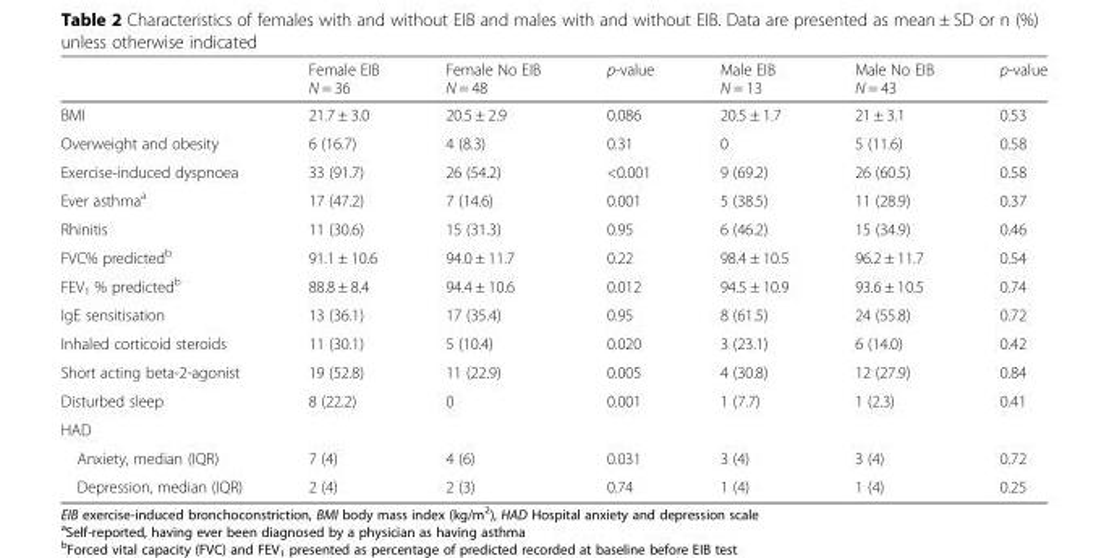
<table><thead><tr><td></td><td>Female EIB N = 36</td><td>Female No EIB N = 48</td><td>p-value</td><td>Male EIB N = 13</td><td>Male No EIB N = 43</td><td>p-value</td></tr></thead><tbody><tr><td>BMI</td><td>21.7 ± 3.0</td><td>20.5 ± 2.9</td><td>0.086</td><td>20.5 ± 1.7</td><td>21 ± 3.1</td><td>0.53</td></tr><tr><td>Overweight and obesity</td><td>6 (16.7)</td><td>4 (8.3)</td><td>0.31</td><td>0</td><td>5 (11.6)</td><td>0.58</td></tr><tr><td>Exercise-induced dyspnoea</td><td>33 (91.7)</td><td>26 (54.2)</td><td>&lt;0.001</td><td>9 (69.2)</td><td>26 (60.5)</td><td>0.58</td></tr><tr><td>Ever asthma<sup>a</sup></td><td>17 (47.2)</td><td>7 (14.6)</td><td>0.001</td><td>5 (38.5)</td><td>11 (28.9)</td><td>0.37</td></tr><tr><td>Rhinitis</td><td>11 (30.6)</td><td>15 (31.3)</td><td>0.95</td><td>6 (46.2)</td><td>15 (34.9)</td><td>0.46</td></tr><tr><td>FVC% predicted<sup>b</sup></td><td>91.1 ± 10.6</td><td>94.0 ± 11.7</td><td>0.22</td><td>98.4 ± 10.5</td><td>96.2 ± 11.7</td><td>0.54</td></tr><tr><td>FEV<sub>1</sub> % predicted<sup>b</sup></td><td>88.8 ± 8.4</td><td>94.4 ± 10.6</td><td>0.012</td><td>94.5 ± 10.9</td><td>93.6 ± 10.5</td><td>0.74</td></tr><tr><td>IgE sensitisation</td><td>13 (36.1)</td><td>17 (35.4)</td><td>0.95</td><td>8 (61.5)</td><td>24 (55.8)</td><td>0.72</td></tr><tr><td>Inhaled corticoid steroids</td><td>11 (30.1)</td><td>5 (10.4)</td><td>0.020</td><td>3 (23.1)</td><td>6 (14.0)</td><td>0.42</td></tr><tr><td>Short acting beta-2-agonist</td><td>19 (52.8)</td><td>11 (22.9)</td><td>0.005</td><td>4 (30.8)</td><td>12 (27.9)</td><td>0.84</td></tr><tr><td>Disturbed sleep</td><td>8 (22.2)</td><td>0</td><td>0.001</td><td>1 (7.7)</td><td>1 (2.3)</td><td>0.41</td></tr><tr><td colspan="7">HAD</td></tr><tr><td>Anxiety, median (IQR)</td><td>7 (4)</td><td>4 (6)</td><td>0.031</td><td>3 (4)</td><td>3 (4)</td><td>0.72</td></tr><tr><td>Depression, median (IQR)</td><td>2 (4)</td><td>2 (3)</td><td>0.74</td><td>1 (4)</td><td>1 (4)</td><td>0.25</td></tr></tbody></table>